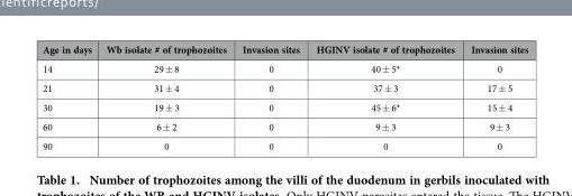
<table><thead><tr><td>Age in days</td><td>Wb isolate # of trophozoites</td><td>Invasion sites</td><td>HGINV isolate # of trophozoites</td><td>Invasion sites</td></tr></thead><tbody><tr><td>14</td><td>29 ± 8</td><td>0</td><td>40 ± 5*</td><td>0</td></tr><tr><td>21</td><td>31 ± 4</td><td>0</td><td>37 ± 3</td><td>17 ± 5</td></tr><tr><td>30</td><td>19 ± 3</td><td>0</td><td>45 ± 6*</td><td>15 ± 4</td></tr><tr><td>60</td><td>6 ± 2</td><td>0</td><td>9 ± 3</td><td>9 ± 3</td></tr><tr><td>90</td><td>0</td><td>0</td><td>0</td><td>0</td></tr></tbody></table>